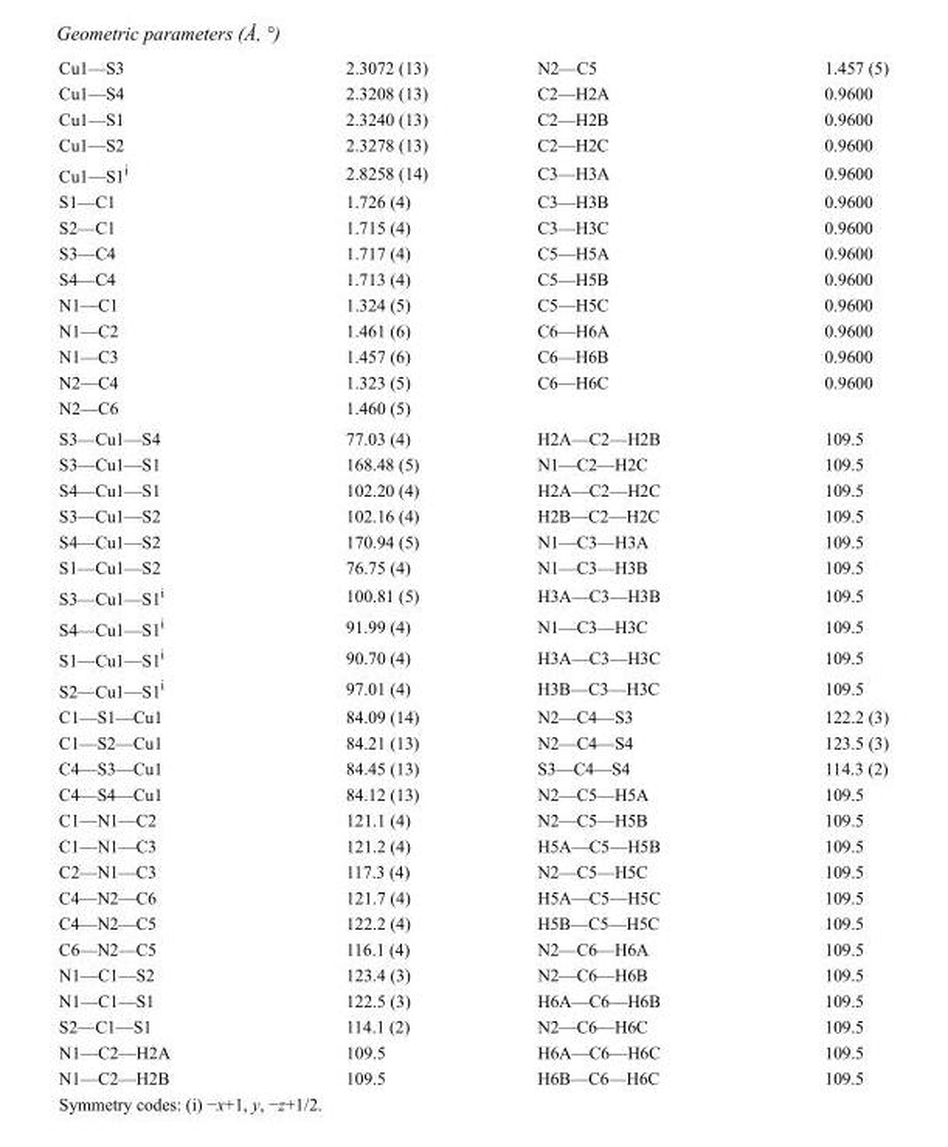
<table><tbody><tr><td>Cu1—S3</td><td>2.3072 (13)</td><td>N2—C5</td><td>1.457 (5)</td></tr><tr><td>Cu1—S4</td><td>2.3208 (13)</td><td>C2—H2A</td><td>0.9600</td></tr><tr><td>Cu1—S1</td><td>2.3240 (13)</td><td>C2—H2B</td><td>0.9600</td></tr><tr><td>Cu1—S2</td><td>2.3278 (13)</td><td>C2—H2C</td><td>0.9600</td></tr><tr><td>Cu1—S1<sup>i</sup></td><td>2.8258 (14)</td><td>C3—H3A</td><td>0.9600</td></tr><tr><td>S1—C1</td><td>1.726 (4)</td><td>C3—H3B</td><td>0.9600</td></tr><tr><td>S2—C1</td><td>1.715 (4)</td><td>C3—H3C</td><td>0.9600</td></tr><tr><td>S3—C4</td><td>1.717 (4)</td><td>C5—H5A</td><td>0.9600</td></tr><tr><td>S4—C4</td><td>1.713 (4)</td><td>C5—H5B</td><td>0.9600</td></tr><tr><td>N1—C1</td><td>1.324 (5)</td><td>C5—H5C</td><td>0.9600</td></tr><tr><td>N1—C2</td><td>1.461 (6)</td><td>C6—H6A</td><td>0.9600</td></tr><tr><td>N1—C3</td><td>1.457 (6)</td><td>C6—H6B</td><td>0.9600</td></tr><tr><td>N2—C4</td><td>1.323 (5)</td><td>C6—H6C</td><td>0.9600</td></tr><tr><td>N2—C6</td><td>1.460 (5)</td><td></td><td></td></tr><tr><td>S3—Cu1—S4</td><td>77.03 (4)</td><td>H2A—C2—H2B</td><td>109.5</td></tr><tr><td>S3—Cu1—S1</td><td>168.48 (5)</td><td>N1—C2—H2C</td><td>109.5</td></tr><tr><td>S4—Cu1—S1</td><td>102.20 (4)</td><td>H2A—C2—H2C</td><td>109.5</td></tr><tr><td>S3—Cu1—S2</td><td>102.16 (4)</td><td>H2B—C2—H2C</td><td>109.5</td></tr><tr><td>S4—Cu1—S2</td><td>170.94 (5)</td><td>N1—C3—H3A</td><td>109.5</td></tr><tr><td>S1—Cu1—S2</td><td>76.75 (4)</td><td>N1—C3—H3B</td><td>109.5</td></tr><tr><td>S3—Cu1—S1<sup>i</sup></td><td>100.81 (5)</td><td>H3A—C3—H3B</td><td>109.5</td></tr><tr><td>S4—Cu1—S1<sup>i</sup></td><td>91.99 (4)</td><td>N1—C3—H3C</td><td>109.5</td></tr><tr><td>S1—Cu1—S1<sup>i</sup></td><td>90.70 (4)</td><td>H3A—C3—H3C</td><td>109.5</td></tr><tr><td>S2—Cu1—S1<sup>i</sup></td><td>97.01 (4)</td><td>H3B—C3—H3C</td><td>109.5</td></tr><tr><td>C1—S1—Cu1</td><td>84.09 (14)</td><td>N2—C4—S3</td><td>122.2 (3)</td></tr><tr><td>C1—S2—Cu1</td><td>84.21 (13)</td><td>N2—C4—S4</td><td>123.5 (3)</td></tr><tr><td>C4—S3—Cu1</td><td>84.45 (13)</td><td>S3—C4—S4</td><td>114.3 (2)</td></tr><tr><td>C4—S4—Cu1</td><td>84.12 (13)</td><td>N2—C5—H5A</td><td>109.5</td></tr><tr><td>C1—N1—C2</td><td>121.1 (4)</td><td>N2—C5—H5B</td><td>109.5</td></tr><tr><td>C1—N1—C3</td><td>121.2 (4)</td><td>H5A—C5—H5B</td><td>109.5</td></tr><tr><td>C2—N1—C3</td><td>117.3 (4)</td><td>N2—C5—H5C</td><td>109.5</td></tr><tr><td>C4—N2—C6</td><td>121.7 (4)</td><td>H5A—C5—H5C</td><td>109.5</td></tr><tr><td>C4—N2—C5</td><td>122.2 (4)</td><td>H5B—C5—H5C</td><td>109.5</td></tr><tr><td>C6—N2—C5</td><td>116.1 (4)</td><td>N2—C6—H6A</td><td>109.5</td></tr><tr><td>N1—C1—S2</td><td>123.4 (3)</td><td>N2—C6—H6B</td><td>109.5</td></tr><tr><td>N1—C1—S1</td><td>122.5 (3)</td><td>H6A—C6—H6B</td><td>109.5</td></tr><tr><td>S2—C1—S1</td><td>114.1 (2)</td><td>N2—C6—H6C</td><td>109.5</td></tr><tr><td>N1—C2—H2A</td><td>109.5</td><td>H6A—C6—H6C</td><td>109.5</td></tr><tr><td>N1—C2—H2B</td><td>109.5</td><td>H6B—C6—H6C</td><td>109.5</td></tr></tbody></table>